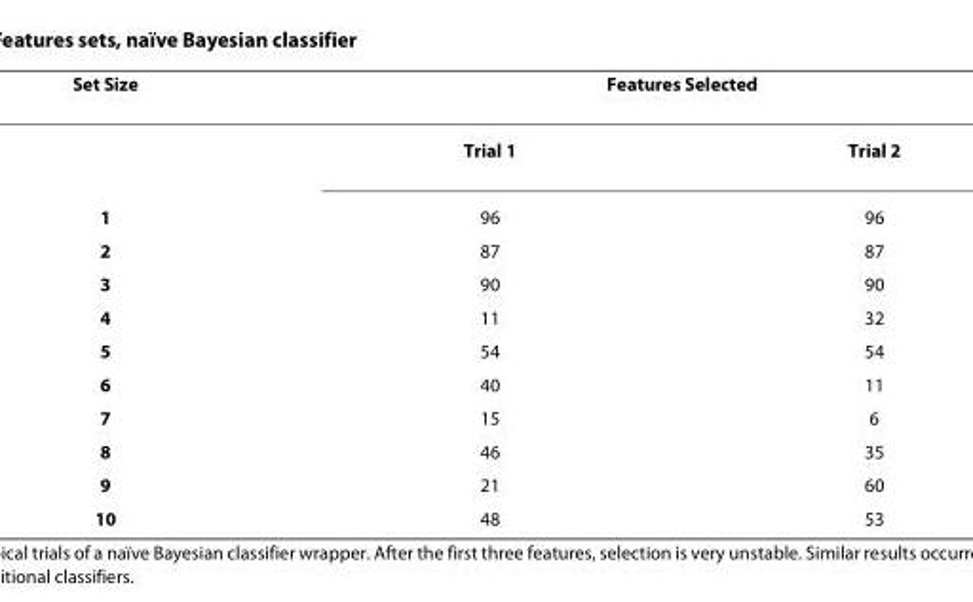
<table><thead><tr><td rowspan="2">Set Size</td><td colspan="2">Features Selected</td></tr><tr><td>Trial 1</td><td>Trial 2</td></tr></thead><tbody><tr><td>1</td><td>96</td><td>96</td></tr><tr><td>2</td><td>87</td><td>87</td></tr><tr><td>3</td><td>90</td><td>90</td></tr><tr><td>4</td><td>11</td><td>32</td></tr><tr><td>5</td><td>54</td><td>54</td></tr><tr><td>6</td><td>40</td><td>11</td></tr><tr><td>7</td><td>15</td><td>6</td></tr><tr><td>8</td><td>46</td><td>35</td></tr><tr><td>9</td><td>21</td><td>60</td></tr><tr><td>10</td><td>48</td><td>53</td></tr></tbody></table>